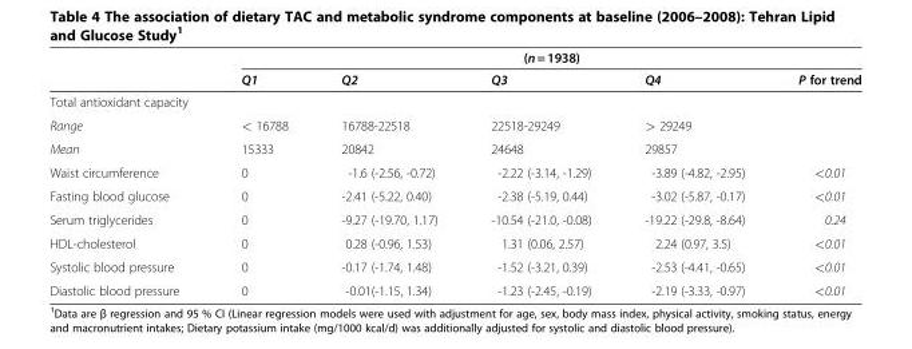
<table><thead><tr><td rowspan="2"></td><td colspan="5">(n = 1938)</td></tr><tr><td>Q1</td><td>Q2</td><td>Q3</td><td>Q4</td><td>P for trend</td></tr></thead><tbody><tr><td colspan="6">Total antioxidant capacity</td></tr><tr><td>Range</td><td>&lt; 16788</td><td>16788-22518</td><td>22518-29249</td><td>&gt; 29249</td><td></td></tr><tr><td>Mean</td><td>15333</td><td>20842</td><td>24648</td><td>29857</td><td></td></tr><tr><td>Waist circumference</td><td>0</td><td>-1.6 (-2.56, -0.72)</td><td>-2.22 (-3.14, -1.29)</td><td>-3.89 (-4.82, -2.95)</td><td>&lt;0.01</td></tr><tr><td>Fasting blood glucose</td><td>0</td><td>-2.41 (-5.22, 0.40)</td><td>-2.38 (-5.19, 0.44)</td><td>-3.02 (-5.87, -0.17)</td><td>&lt;0.01</td></tr><tr><td>Serum triglycerides</td><td>0</td><td>-9.27 (-19.70, 1.17)</td><td>-10.54 (-21.0, -0.08)</td><td>-19.22 (-29.8, -8.64)</td><td>0.24</td></tr><tr><td>HDL-cholesterol</td><td>0</td><td>0.28 (-0.96, 1.53)</td><td>1.31 (0.06, 2.57)</td><td>2.24 (0.97, 3.5)</td><td>&lt;0.01</td></tr><tr><td>Systolic blood pressure</td><td>0</td><td>-0.17 (-1.74, 1.48)</td><td>-1.52 (-3.21, 0.39)</td><td>-2.53 (-4.41, -0.65)</td><td>&lt;0.01</td></tr><tr><td>Diastolic blood pressure</td><td>0</td><td>-0.01(-1.15, 1.34)</td><td>-1.23 (-2.45, -0.19)</td><td>-2.19 (-3.33, -0.97)</td><td>&lt;0.01</td></tr></tbody></table>